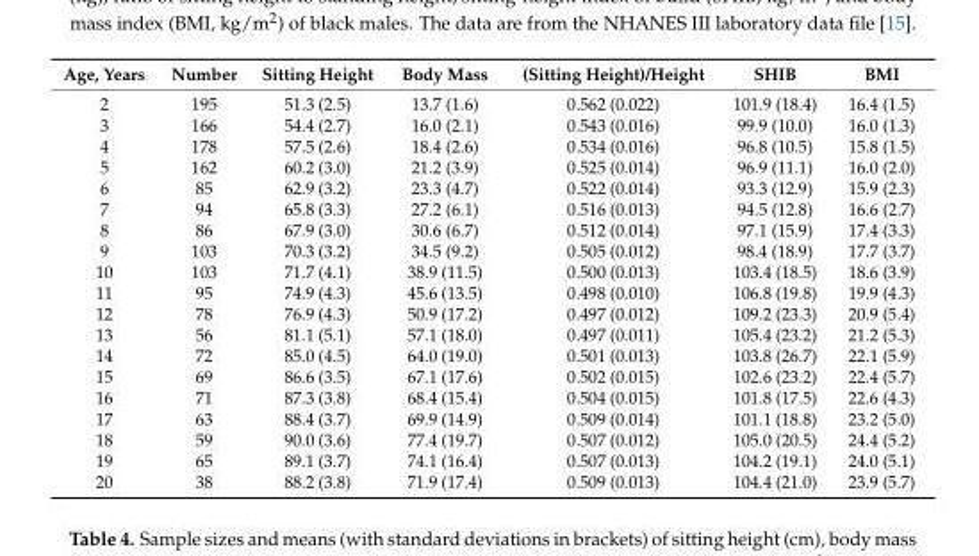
<table><thead><tr><td>Age, Years</td><td>Number</td><td>Sitting Height</td><td>Body Mass</td><td>(Sitting Height)/Height</td><td>SHIB</td><td>BMI</td></tr></thead><tbody><tr><td>2</td><td>195</td><td>51.3 (2.5)</td><td>13.7 (1.6)</td><td>0.562 (0.022)</td><td>101.9 (18.4)</td><td>16.4 (1.5)</td></tr><tr><td>3</td><td>166</td><td>54.4 (2.7)</td><td>16.0 (2.1)</td><td>0.543 (0.016)</td><td>99.9 (10.0)</td><td>16.0 (1.3)</td></tr><tr><td>4</td><td>178</td><td>57.5 (2.6)</td><td>18.4 (2.6)</td><td>0.534 (0.016)</td><td>96.8 (10.5)</td><td>15.8 (1.5)</td></tr><tr><td>5</td><td>162</td><td>60.2 (3.0)</td><td>21.2 (3.9)</td><td>0.525 (0.014)</td><td>96.9 (11.1)</td><td>16.0 (2.0)</td></tr><tr><td>6</td><td>85</td><td>62.9 (3.2)</td><td>23.3 (4.7)</td><td>0.522 (0.014)</td><td>93.3 (12.9)</td><td>15.9 (2.3)</td></tr><tr><td>7</td><td>94</td><td>65.8 (3.3)</td><td>27.2 (6.1)</td><td>0.516 (0.013)</td><td>94.5 (12.8)</td><td>16.6 (2.7)</td></tr><tr><td>8</td><td>86</td><td>67.9 (3.0)</td><td>30.6 (6.7)</td><td>0.512 (0.014)</td><td>97.1 (15.9)</td><td>17.4 (3.3)</td></tr><tr><td>9</td><td>103</td><td>70.3 (3.2)</td><td>34.5 (9.2)</td><td>0.505 (0.012)</td><td>98.4 (18.9)</td><td>17.7 (3.7)</td></tr><tr><td>10</td><td>103</td><td>71.7 (4.1)</td><td>38.9 (11.5)</td><td>0.500 (0.013)</td><td>103.4 (18.5)</td><td>18.6 (3.9)</td></tr><tr><td>11</td><td>95</td><td>74.9 (4.3)</td><td>45.6 (13.5)</td><td>0.498 (0.010)</td><td>106.8 (19.8)</td><td>19.9 (4.3)</td></tr><tr><td>12</td><td>78</td><td>76.9 (4.3)</td><td>50.9 (17.2)</td><td>0.497 (0.012)</td><td>109.2 (23.3)</td><td>20.9 (5.4)</td></tr><tr><td>13</td><td>56</td><td>81.1 (5.1)</td><td>57.1 (18.0)</td><td>0.497 (0.011)</td><td>105.4 (23.2)</td><td>21.2 (5.3)</td></tr><tr><td>14</td><td>72</td><td>85.0 (4.5)</td><td>64.0 (19.0)</td><td>0.501 (0.013)</td><td>103.8 (26.7)</td><td>22.1 (5.9)</td></tr><tr><td>15</td><td>69</td><td>86.6 (3.5)</td><td>67.1 (17.6)</td><td>0.502 (0.015)</td><td>102.6 (23.2)</td><td>22.4 (5.7)</td></tr><tr><td>16</td><td>71</td><td>87.3 (3.8)</td><td>68.4 (15.4)</td><td>0.504 (0.015)</td><td>101.8 (17.5)</td><td>22.6 (4.3)</td></tr><tr><td>17</td><td>63</td><td>88.4 (3.7)</td><td>69.9 (14.9)</td><td>0.509 (0.014)</td><td>101.1 (18.8)</td><td>23.2 (5.0)</td></tr><tr><td>18</td><td>59</td><td>90.0 (3.6)</td><td>77.4 (19.7)</td><td>0.507 (0.012)</td><td>105.0 (20.5)</td><td>24.4 (5.2)</td></tr><tr><td>19</td><td>65</td><td>89.1 (3.7)</td><td>74.1 (16.4)</td><td>0.507 (0.013)</td><td>104.2 (19.1)</td><td>24.0 (5.1)</td></tr><tr><td>20</td><td>38</td><td>88.2 (3.8)</td><td>71.9 (17.4)</td><td>0.509 (0.013)</td><td>104.4 (21.0)</td><td>23.9 (5.7)</td></tr></tbody></table>